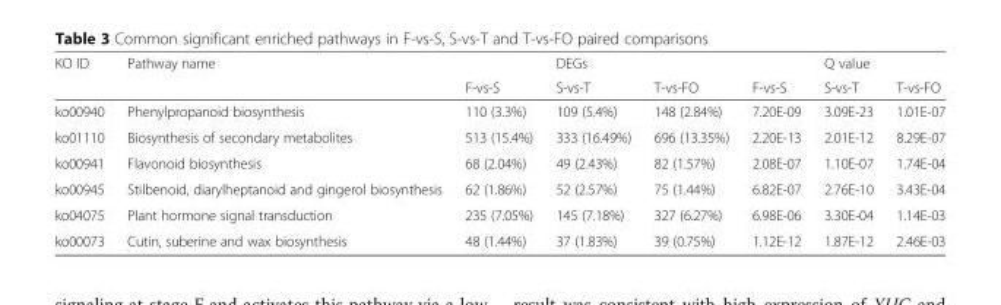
<table><thead><tr><td rowspan="2">KO ID</td><td rowspan="2">Pathway name</td><td rowspan="2">F-vs-S</td><td rowspan="2">DEGs S-vs-T</td><td rowspan="2">T-vs-FO</td><td rowspan="2">F-vs-S</td><td rowspan="2">Q value S-vs-T</td><td rowspan="2">T-vs-FO</td></tr><tr></tr></thead><tbody><tr><td>ko00940</td><td>Phenylpropanoid biosynthesis</td><td>110 (3.3%)</td><td>109 (5.4%)</td><td>148 (2.84%)</td><td>7.20E-09</td><td>3.09E-23</td><td>1.01E-07</td></tr><tr><td>ko01110</td><td>Biosynthesis of secondary metabolites</td><td>513 (15.4%)</td><td>333 (16.49%)</td><td>696 (13.35%)</td><td>2.20E-13</td><td>2.01E-12</td><td>8.29E-07</td></tr><tr><td>ko00941</td><td>Flavonoid biosynthesis</td><td>68 (2.04%)</td><td>49 (2.43%)</td><td>82 (1.57%)</td><td>2.08E-07</td><td>1.10E-07</td><td>1.74E-04</td></tr><tr><td>ko00945</td><td>Stilbenoid, diarylheptanoid and gingerol biosynthesis</td><td>62 (1.86%)</td><td>52 (2.57%)</td><td>75 (1.44%)</td><td>6.82E-07</td><td>2.76E-10</td><td>3.43E-04</td></tr><tr><td>ko04075</td><td>Plant hormone signal transduction</td><td>235 (7.05%)</td><td>145 (7.18%)</td><td>327 (6.27%)</td><td>6.98E-06</td><td>3.30E-04</td><td>1.14E-03</td></tr><tr><td>ko00073</td><td>Cutin, suberine and wax biosynthesis</td><td>48 (1.44%)</td><td>37 (1.83%)</td><td>39 (0.75%)</td><td>1.12E-12</td><td>1.87E-12</td><td>2.46E-03</td></tr></tbody></table>